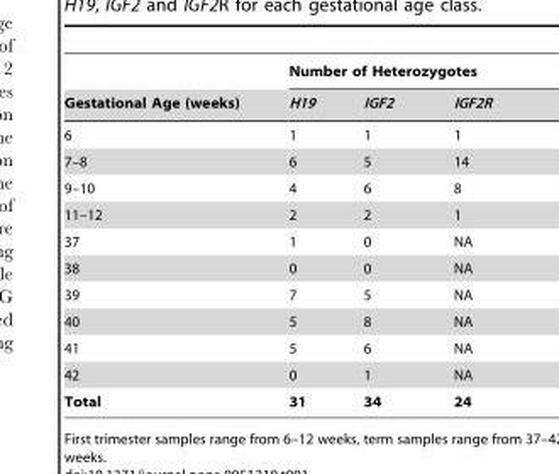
<table><thead><tr><td rowspan="2">Gestational Age (weeks)</td><td colspan="3">Number of Heterozygotes</td></tr><tr><td>H19</td><td>IGF2</td><td>IGF2R</td></tr></thead><tbody><tr><td>6</td><td>1</td><td>1</td><td>1</td></tr><tr><td>7–8</td><td>6</td><td>5</td><td>14</td></tr><tr><td>9–10</td><td>4</td><td>6</td><td>8</td></tr><tr><td>11–12</td><td>2</td><td>2</td><td>1</td></tr><tr><td>37</td><td>1</td><td>0</td><td>NA</td></tr><tr><td>38</td><td>0</td><td>0</td><td>NA</td></tr><tr><td>39</td><td>7</td><td>5</td><td>NA</td></tr><tr><td>40</td><td>5</td><td>8</td><td>NA</td></tr><tr><td>41</td><td>5</td><td>6</td><td>NA</td></tr><tr><td>42</td><td>0</td><td>1</td><td>NA</td></tr><tr><td>Total</td><td>31</td><td>34</td><td>24</td></tr></tbody></table>